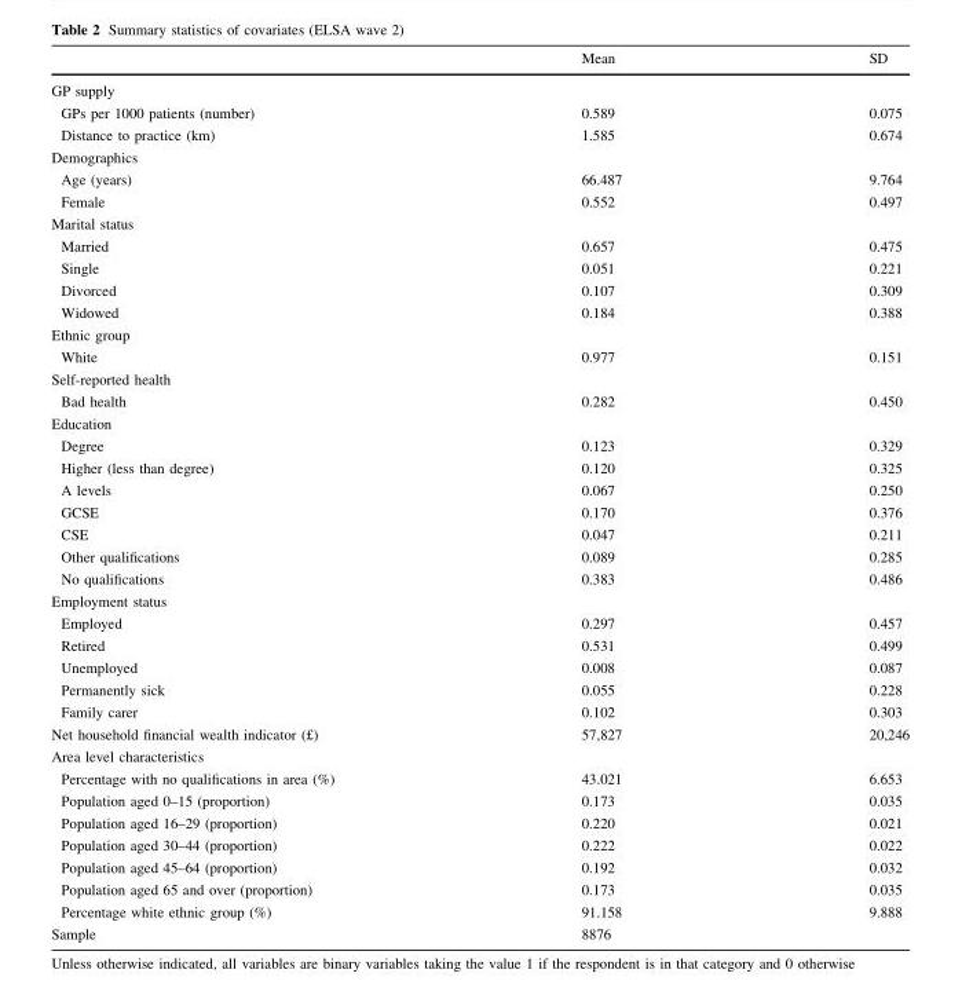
<table><thead><tr><td></td><td>Mean</td><td>SD</td></tr></thead><tbody><tr><td colspan="3">GP supply</td></tr><tr><td>GPs per 1000 patients (number)</td><td>0.589</td><td>0.075</td></tr><tr><td>Distance to practice (km)</td><td>1.585</td><td>0.674</td></tr><tr><td colspan="3">Demographics</td></tr><tr><td>Age (years)</td><td>66.487</td><td>9.764</td></tr><tr><td>Female</td><td>0.552</td><td>0.497</td></tr><tr><td colspan="3">Marital status</td></tr><tr><td>Married</td><td>0.657</td><td>0.475</td></tr><tr><td>Single</td><td>0.051</td><td>0.221</td></tr><tr><td>Divorced</td><td>0.107</td><td>0.309</td></tr><tr><td>Widowed</td><td>0.184</td><td>0.388</td></tr><tr><td colspan="3">Ethnic group</td></tr><tr><td>White</td><td>0.977</td><td>0.151</td></tr><tr><td colspan="3">Self-reported health</td></tr><tr><td>Bad health</td><td>0.282</td><td>0.450</td></tr><tr><td colspan="3">Education</td></tr><tr><td>Degree</td><td>0.123</td><td>0.329</td></tr><tr><td>Higher (less than degree)</td><td>0.120</td><td>0.325</td></tr><tr><td>A levels</td><td>0.067</td><td>0.250</td></tr><tr><td>GCSE</td><td>0.170</td><td>0.376</td></tr><tr><td>CSE</td><td>0.047</td><td>0.211</td></tr><tr><td>Other qualifications</td><td>0.089</td><td>0.285</td></tr><tr><td>No qualifications</td><td>0.383</td><td>0.486</td></tr><tr><td colspan="3">Employment status</td></tr><tr><td>Employed</td><td>0.297</td><td>0.457</td></tr><tr><td>Retired</td><td>0.531</td><td>0.499</td></tr><tr><td>Unemployed</td><td>0.008</td><td>0.087</td></tr><tr><td>Permanently sick</td><td>0.055</td><td>0.228</td></tr><tr><td>Family carer</td><td>0.102</td><td>0.303</td></tr><tr><td>Net household financial wealth indicator (£)</td><td>57,827</td><td>20,246</td></tr><tr><td colspan="3">Area level characteristics</td></tr><tr><td>Percentage with no qualifications in area (%)</td><td>43.021</td><td>6.653</td></tr><tr><td>Population aged 0–15 (proportion)</td><td>0.173</td><td>0.035</td></tr><tr><td>Population aged 16–29 (proportion)</td><td>0.220</td><td>0.021</td></tr><tr><td>Population aged 30–44 (proportion)</td><td>0.222</td><td>0.022</td></tr><tr><td>Population aged 45–64 (proportion)</td><td>0.192</td><td>0.032</td></tr><tr><td>Population aged 65 and over (proportion)</td><td>0.173</td><td>0.035</td></tr><tr><td>Percentage white ethnic group (%)</td><td>91.158</td><td>9.888</td></tr><tr><td>Sample</td><td colspan="2">8876</td></tr></tbody></table>